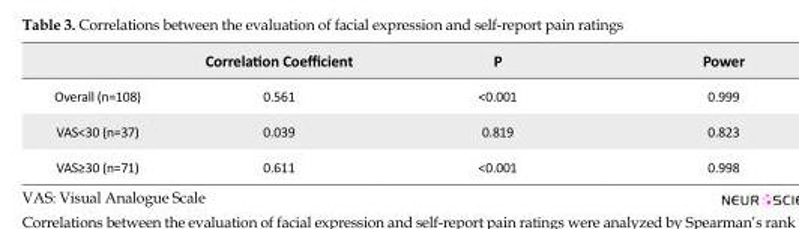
<table><thead><tr><td></td><td>Correlation Coefficient</td><td>P</td><td>Power</td></tr></thead><tbody><tr><td>Overall (n=108)</td><td>0.561</td><td>&lt;0.001</td><td>0.999</td></tr><tr><td>VAS&lt;30 (n=37)</td><td>0.039</td><td>0.819</td><td>0.823</td></tr><tr><td>VAS≥30 (n=71)</td><td>0.611</td><td>&lt;0.001</td><td>0.998</td></tr></tbody></table>